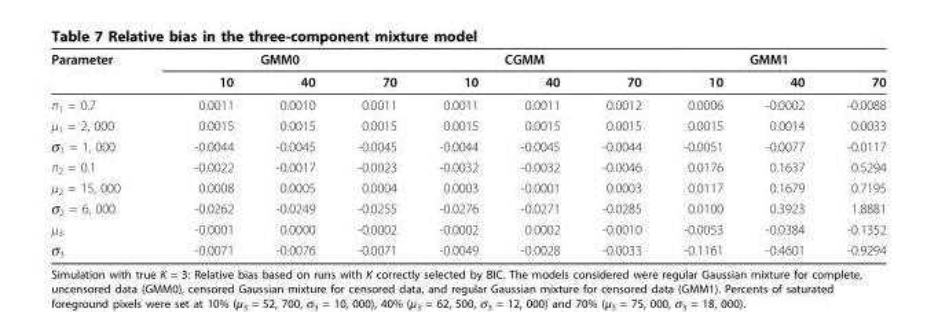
<table><thead><tr><td rowspan="2">Parameter</td><td colspan="3">GMM0</td><td colspan="3">CGMM</td><td colspan="3">GMM1</td></tr><tr><td>10</td><td>40</td><td>70</td><td>10</td><td>40</td><td>70</td><td>10</td><td>40</td><td>70</td></tr></thead><tbody><tr><td>π<sub>1</sub> = 0.7</td><td>0.0011</td><td>0.0010</td><td>0.0011</td><td>0.0011</td><td>0.0011</td><td>0.0012</td><td>0.0006</td><td>-0.0002</td><td>-0.0088</td></tr><tr><td>μ<sub>1</sub> = 2, 000</td><td>0.0015</td><td>0.0015</td><td>0.0015</td><td>0.0015</td><td>0.0015</td><td>0.0015</td><td>0.0015</td><td>0.0014</td><td>0.0033</td></tr><tr><td>σ<sub>1</sub> = 1, 000</td><td>-0.0044</td><td>-0.0045</td><td>-0.0045</td><td>-0.0044</td><td>-0.0045</td><td>-0.0044</td><td>-0.0051</td><td>-0.0077</td><td>-0.0117</td></tr><tr><td>π<sub>2</sub> = 0.1</td><td>-0.0022</td><td>-0.0017</td><td>-0.0023</td><td>-0.0032</td><td>-0.0032</td><td>-0.0046</td><td>0.0176</td><td>0.1637</td><td>0.5294</td></tr><tr><td>μ<sub>2</sub> = 15, 000</td><td>0.0008</td><td>0.0005</td><td>0.0004</td><td>0.0003</td><td>-0.0001</td><td>0.0003</td><td>0.0117</td><td>0.1679</td><td>0.7195</td></tr><tr><td>σ<sub>2</sub> = 6, 000</td><td>-0.0262</td><td>-0.0249</td><td>-0.0255</td><td>-0.0276</td><td>-0.0271</td><td>-0.0285</td><td>0.0100</td><td>0.3923</td><td>1.8881</td></tr><tr><td>μ<sub>3</sub></td><td>-0.0001</td><td>0.0000</td><td>-0.0002</td><td>-0.0002</td><td>0.0002</td><td>-0.0010</td><td>-0.0053</td><td>-0.0384</td><td>-0.1352</td></tr><tr><td>σ<sub>3</sub></td><td>-0.0071</td><td>-0.0076</td><td>-0.0071</td><td>-0.0049</td><td>-0.0028</td><td>-0.0033</td><td>-0.1161</td><td>-0.4601</td><td>-0.9294</td></tr></tbody></table>